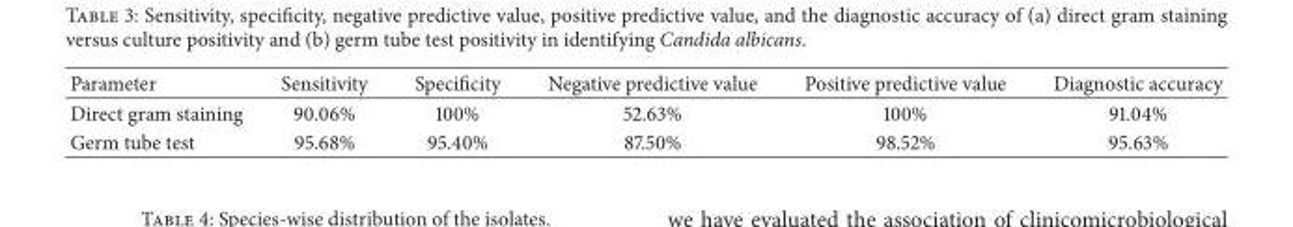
<table><thead><tr><td>Parameter</td><td>Sensitivity</td><td>Specificity</td><td>Negative predictive value</td><td>Positive predictive value</td><td>Diagnostic accuracy</td></tr></thead><tbody><tr><td>Direct gram staining</td><td>90.06%</td><td>100%</td><td>52.63%</td><td>100%</td><td>91.04%</td></tr><tr><td>Germ tube test</td><td>95.68%</td><td>95.40%</td><td>87.50%</td><td>98.52%</td><td>95.63%</td></tr></tbody></table>